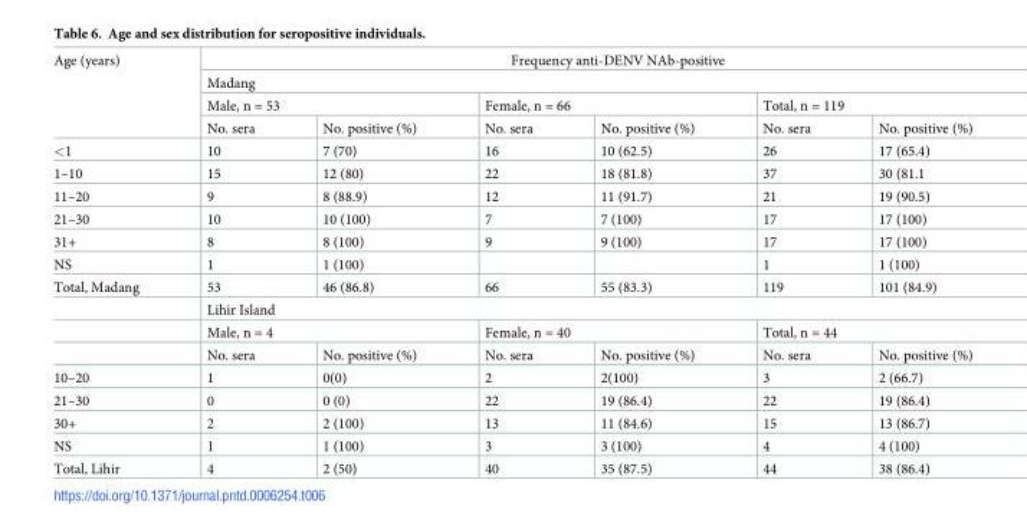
<table><tbody><tr><td rowspan="4">Age (years)</td><td colspan="6">Frequency anti-DENV NAb-positive</td></tr><tr><td colspan="6">Madang</td></tr><tr><td colspan="2">Male, n = 53</td><td colspan="2">Female, n = 66</td><td colspan="2">Total, n = 119</td></tr><tr><td>No. sera</td><td>No. positive (%)</td><td>No. sera</td><td>No. positive (%)</td><td>No. sera</td><td>No. positive (%)</td></tr><tr><td>&lt;1</td><td>10</td><td>7 (70)</td><td>16</td><td>10 (62.5)</td><td>26</td><td>17 (65.4)</td></tr><tr><td>1–10</td><td>15</td><td>12 (80)</td><td>22</td><td>18 (81.8)</td><td>37</td><td>30 (81.1</td></tr><tr><td>11–20</td><td>9</td><td>8 (88.9)</td><td>12</td><td>11 (91.7)</td><td>21</td><td>19 (90.5)</td></tr><tr><td>21–30</td><td>10</td><td>10 (100)</td><td>7</td><td>7 (100)</td><td>17</td><td>17 (100)</td></tr><tr><td>31+</td><td>8</td><td>8 (100)</td><td>9</td><td>9 (100)</td><td>17</td><td>17 (100)</td></tr><tr><td>NS</td><td>1</td><td>1 (100)</td><td></td><td></td><td>1</td><td>1 (100)</td></tr><tr><td rowspan="4">Total, Madang</td><td>53</td><td>46 (86.8)</td><td>66</td><td>55 (83.3)</td><td>119</td><td>101 (84.9)</td></tr><tr><td colspan="6">Lihir Island</td></tr><tr><td colspan="2">Male, n = 4</td><td colspan="2">Female, n = 40</td><td colspan="2">Total, n = 44</td></tr><tr><td>No. sera</td><td>No. positive (%)</td><td>No. sera</td><td>No. positive (%)</td><td>No. sera</td><td>No. positive (%)</td></tr><tr><td>10–20</td><td>1</td><td>0(0)</td><td>2</td><td>2(100)</td><td>3</td><td>2 (66.7)</td></tr><tr><td>21–30</td><td>0</td><td>0 (0)</td><td>22</td><td>19 (86.4)</td><td>22</td><td>19 (86.4)</td></tr><tr><td>30+</td><td>2</td><td>2 (100)</td><td>13</td><td>11 (84.6)</td><td>15</td><td>13 (86.7)</td></tr><tr><td>NS</td><td>1</td><td>1 (100)</td><td>3</td><td>3 (100)</td><td>4</td><td>4 (100)</td></tr><tr><td>Total, Lihir</td><td>4</td><td>2 (50)</td><td>40</td><td>35 (87.5)</td><td>44</td><td>38 (86.4)</td></tr></tbody></table>